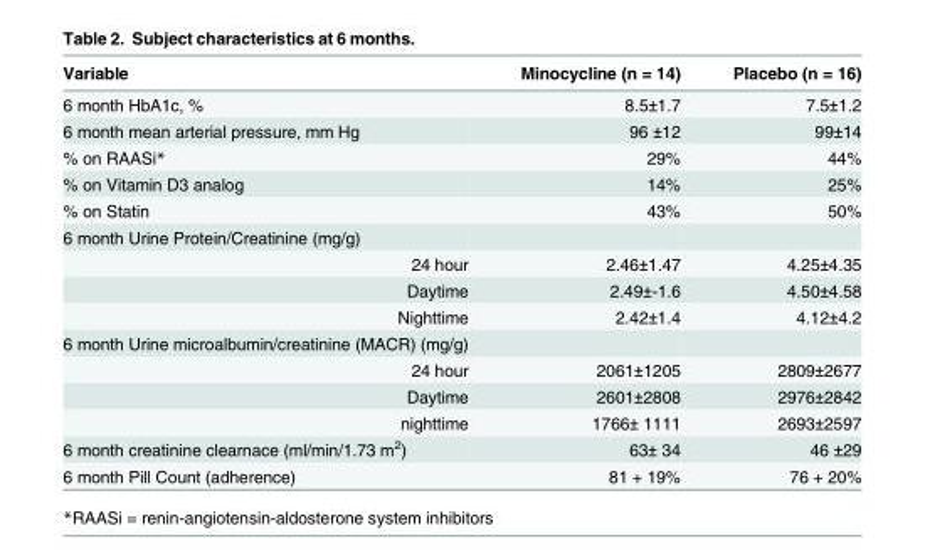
<table><thead><tr><td>Variable</td><td>Minocycline (n = 14)</td><td>Placebo (n = 16)</td></tr></thead><tbody><tr><td>6 month HbA1c, %</td><td>8.5±1.7</td><td>7.5±1.2</td></tr><tr><td>6 month mean arterial pressure, mm Hg</td><td>96 ±12</td><td>99±14</td></tr><tr><td>% on RAASi*</td><td>29%</td><td>44%</td></tr><tr><td>% on Vitamin D3 analog</td><td>14%</td><td>25%</td></tr><tr><td>% on Statin</td><td>43%</td><td>50%</td></tr><tr><td colspan="3">6 month Urine Protein/Creatinine (mg/g)</td></tr><tr><td>24 hour</td><td>2.46±1.47</td><td>4.25±4.35</td></tr><tr><td>Daytime</td><td>2.49±-1.6</td><td>4.50±4.58</td></tr><tr><td>Nighttime</td><td>2.42±1.4</td><td>4.12±4.2</td></tr><tr><td colspan="3">6 month Urine microalbumin/creatinine (MACR) (mg/g)</td></tr><tr><td>24 hour</td><td>2061±1205</td><td>2809±2677</td></tr><tr><td>Daytime</td><td>2601±2808</td><td>2976±2842</td></tr><tr><td>nighttime</td><td>1766± 1111</td><td>2693±2597</td></tr><tr><td>6 month creatinine clearnace (ml/min/1.73 m<sup>2</sup>)</td><td>63± 34</td><td>46 ±29</td></tr><tr><td>6 month Pill Count (adherence)</td><td>81 + 19%</td><td>76 + 20%</td></tr></tbody></table>